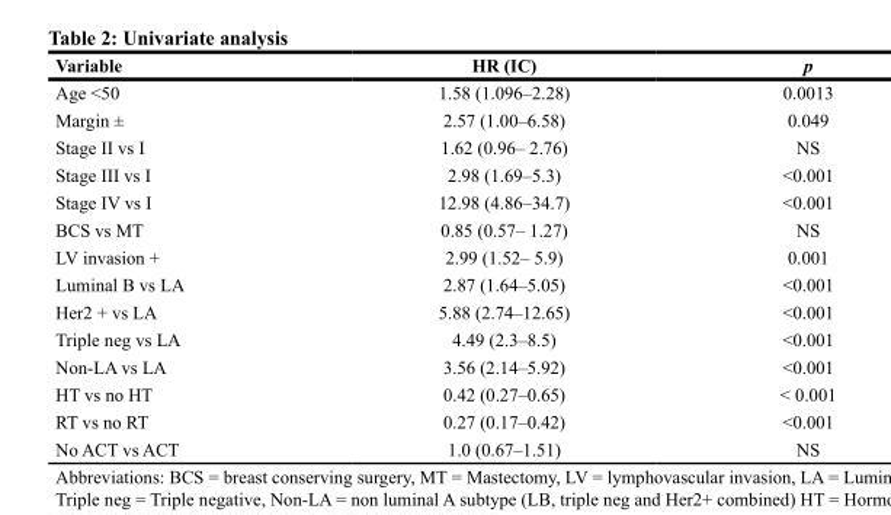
<table><thead><tr><td>Variable</td><td>HR (IC)</td><td>p</td></tr></thead><tbody><tr><td>Age &lt;50</td><td>1.58 (1.096–2.28)</td><td>0.0013</td></tr><tr><td>Margin ±</td><td>2.57 (1.00–6.58)</td><td>0.049</td></tr><tr><td>Stage II vs I</td><td>1.62 (0.96– 2.76)</td><td>NS</td></tr><tr><td>Stage III vs I</td><td>2.98 (1.69–5.3)</td><td>&lt;0.001</td></tr><tr><td>Stage IV vs I</td><td>12.98 (4.86–34.7)</td><td>&lt;0.001</td></tr><tr><td>BCS vs MT</td><td>0.85 (0.57– 1.27)</td><td>NS</td></tr><tr><td>LV invasion +</td><td>2.99 (1.52– 5.9)</td><td>0.001</td></tr><tr><td>Luminal B vs LA</td><td>2.87 (1.64–5.05)</td><td>&lt;0.001</td></tr><tr><td>Her2 + vs LA</td><td>5.88 (2.74–12.65)</td><td>&lt;0.001</td></tr><tr><td>Triple neg vs LA</td><td>4.49 (2.3–8.5)</td><td>&lt;0.001</td></tr><tr><td>Non-LA vs LA</td><td>3.56 (2.14–5.92)</td><td>&lt;0.001</td></tr><tr><td>HT vs no HT</td><td>0.42 (0.27–0.65)</td><td>&lt; 0.001</td></tr><tr><td>RT vs no RT</td><td>0.27 (0.17–0.42)</td><td>&lt;0.001</td></tr><tr><td>No ACT vs ACT</td><td>1.0 (0.67–1.51)</td><td>NS</td></tr></tbody></table>